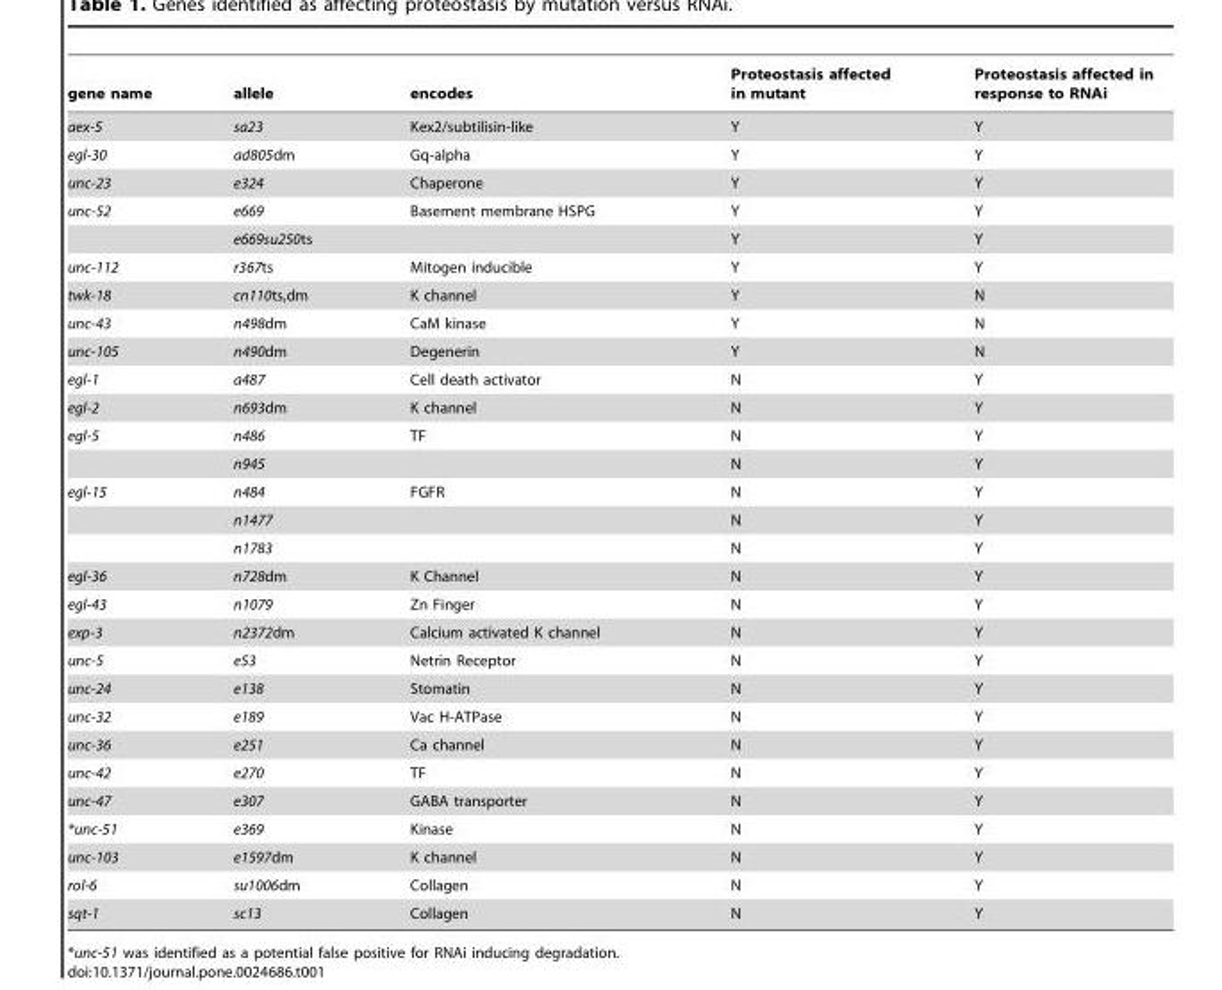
<table><thead><tr><td>gene name</td><td>allele</td><td>encodes</td><td>Proteostasis affected in mutant</td><td>Proteostasis affected in response to RNAi</td></tr></thead><tbody><tr><td>aex-5</td><td>sa23</td><td>Kex2/subtilisin-like</td><td>Y</td><td>Y</td></tr><tr><td>egl-30</td><td>ad805dm</td><td>Gq-alpha</td><td>Y</td><td>Y</td></tr><tr><td>unc-23</td><td>e324</td><td>Chaperone</td><td>Y</td><td>Y</td></tr><tr><td rowspan="2">unc-52</td><td>e669</td><td>Basement membrane HSPG</td><td>Y</td><td>Y</td></tr><tr><td>e669su250ts</td><td></td><td>Y</td><td>Y</td></tr><tr><td>unc-112</td><td>r367ts</td><td>Mitogen inducible</td><td>Y</td><td>Y</td></tr><tr><td>twk-18</td><td>cn110ts,dm</td><td>K channel</td><td>Y</td><td>N</td></tr><tr><td>unc-43</td><td>n498dm</td><td>CaM kinase</td><td>Y</td><td>N</td></tr><tr><td>unc-105</td><td>n490dm</td><td>Degenerin</td><td>Y</td><td>N</td></tr><tr><td>egl-1</td><td>a487</td><td>Cell death activator</td><td>N</td><td>Y</td></tr><tr><td>egl-2</td><td>n693dm</td><td>K channel</td><td>N</td><td>Y</td></tr><tr><td rowspan="2">egl-5</td><td>n486</td><td>TF</td><td>N</td><td>Y</td></tr><tr><td>n945</td><td></td><td>N</td><td>Y</td></tr><tr><td rowspan="3">egl-15</td><td>n484</td><td>FGFR</td><td>N</td><td>Y</td></tr><tr><td>n1477</td><td></td><td>N</td><td>Y</td></tr><tr><td>n1783</td><td></td><td>N</td><td>Y</td></tr><tr><td>egl-36</td><td>n728dm</td><td>K Channel</td><td>N</td><td>Y</td></tr><tr><td>egl-43</td><td>n1079</td><td>Zn Finger</td><td>N</td><td>Y</td></tr><tr><td>exp-3</td><td>n2372dm</td><td>Calcium activated K channel</td><td>N</td><td>Y</td></tr><tr><td>unc-5</td><td>e53</td><td>Netrin Receptor</td><td>N</td><td>Y</td></tr><tr><td>unc-24</td><td>e138</td><td>Stomatin</td><td>N</td><td>Y</td></tr><tr><td>unc-32</td><td>e189</td><td>Vac H-ATPase</td><td>N</td><td>Y</td></tr><tr><td>unc-36</td><td>e251</td><td>Ca channel</td><td>N</td><td>Y</td></tr><tr><td>unc-42</td><td>e270</td><td>TF</td><td>N</td><td>Y</td></tr><tr><td>unc-47</td><td>e307</td><td>GABA transporter</td><td>N</td><td>Y</td></tr><tr><td>*unc-51</td><td>e369</td><td>Kinase</td><td>N</td><td>Y</td></tr><tr><td>unc-103</td><td>e1597dm</td><td>K channel</td><td>N</td><td>Y</td></tr><tr><td>rol-6</td><td>su1006dm</td><td>Collagen</td><td>N</td><td>Y</td></tr><tr><td>sqt-1</td><td>sc13</td><td>Collagen</td><td>N</td><td>Y</td></tr></tbody></table>